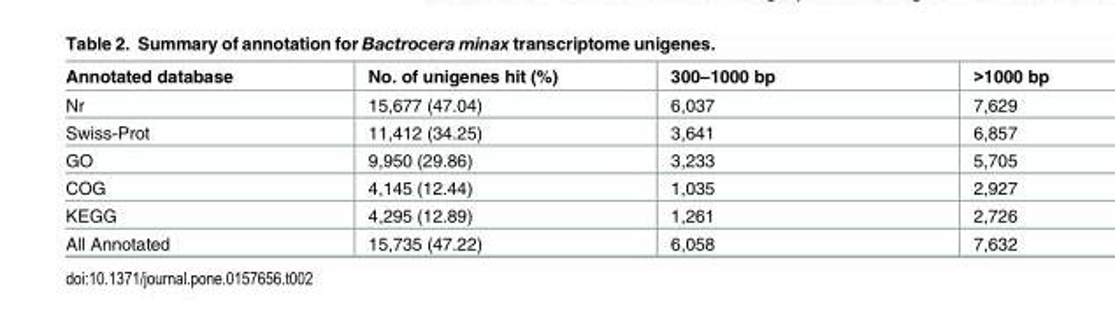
<table><thead><tr><td>Annotated database</td><td>No. of unigenes hit (%)</td><td>300–1000 bp</td><td>&gt;1000 bp</td></tr></thead><tbody><tr><td>Nr</td><td>15,677 (47.04)</td><td>6,037</td><td>7,629</td></tr><tr><td>Swiss-Prot</td><td>11,412 (34.25)</td><td>3,641</td><td>6,857</td></tr><tr><td>GO</td><td>9,950 (29.86)</td><td>3,233</td><td>5,705</td></tr><tr><td>COG</td><td>4,145 (12.44)</td><td>1,035</td><td>2,927</td></tr><tr><td>KEGG</td><td>4,295 (12.89)</td><td>1,261</td><td>2,726</td></tr><tr><td>All Annotated</td><td>15,735 (47.22)</td><td>6,058</td><td>7,632</td></tr></tbody></table>